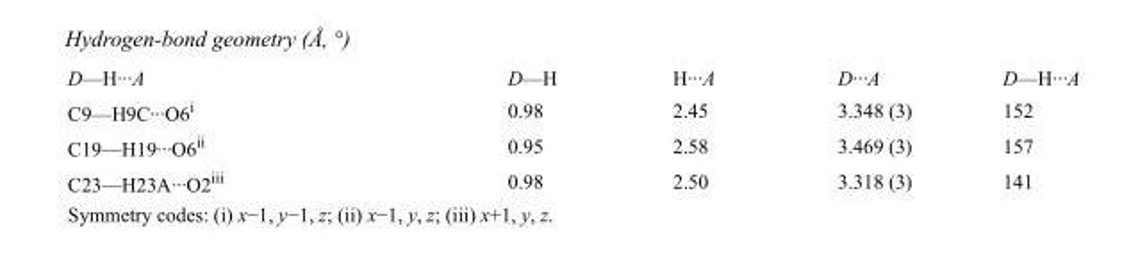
<table><tbody><tr><td>D—H···A</td><td>D—H</td><td>H···A</td><td>D···A</td><td>D—H···A</td></tr><tr><td>C9—H9C···O6<sup>i</sup></td><td>0.98</td><td>2.45</td><td>3.348 (3)</td><td>152</td></tr><tr><td>C19—H19···O6<sup>ii</sup></td><td>0.95</td><td>2.58</td><td>3.469 (3)</td><td>157</td></tr><tr><td>C23—H23A···O2<sup>iii</sup></td><td>0.98</td><td>2.50</td><td>3.318 (3)</td><td>141</td></tr></tbody></table>